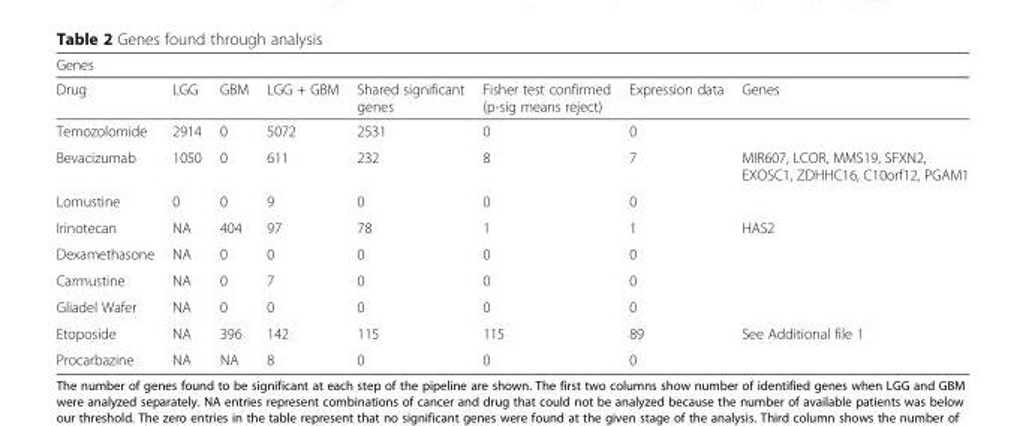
<table><thead><tr><td colspan="8">Genes</td></tr><tr><td>Drug</td><td>LGG</td><td>GBM</td><td>LGG + GBM</td><td>Shared significant genes</td><td>Fisher test confirmed (p-sig means reject)</td><td>Expression data</td><td>Genes</td></tr></thead><tbody><tr><td>Temozolomide</td><td>2914</td><td>0</td><td>5072</td><td>2531</td><td>0</td><td>0</td><td></td></tr><tr><td>Bevacizumab</td><td>1050</td><td>0</td><td>611</td><td>232</td><td>8</td><td>7</td><td>MIR607, LCOR, MMS19, SFXN2, EXOSC1, ZDHHC16, C10orf12, PGAM1</td></tr><tr><td>Lomustine</td><td>0</td><td>0</td><td>9</td><td>0</td><td>0</td><td>0</td><td></td></tr><tr><td>Irinotecan</td><td>NA</td><td>404</td><td>97</td><td>78</td><td>1</td><td>1</td><td>HAS2</td></tr><tr><td>Dexamethasone</td><td>NA</td><td>0</td><td>0</td><td>0</td><td>0</td><td>0</td><td></td></tr><tr><td>Carmustine</td><td>NA</td><td>0</td><td>7</td><td>0</td><td>0</td><td>0</td><td></td></tr><tr><td>Gliadel Wafer</td><td>NA</td><td>0</td><td>0</td><td>0</td><td>0</td><td>0</td><td></td></tr><tr><td>Etoposide</td><td>NA</td><td>396</td><td>142</td><td>115</td><td>115</td><td>89</td><td>See Additional file 1</td></tr><tr><td>Procarbazine</td><td>NA</td><td>NA</td><td>8</td><td>0</td><td>0</td><td>0</td><td></td></tr></tbody></table>